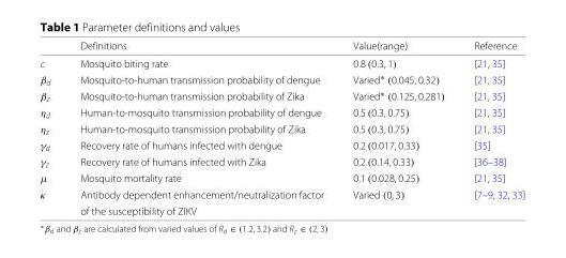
<table><thead><tr><td></td><td>Definitions</td><td>Value(range)</td><td>Reference</td></tr></thead><tbody><tr><td>c</td><td>Mosquito biting rate</td><td>0.8 (0.3, 1)</td><td>[21, 35]</td></tr><tr><td>β<sub>d</sub></td><td>Mosquito-to-human transmission probability of dengue</td><td>Varied∗ (0.045, 0.32)</td><td>[21, 35]</td></tr><tr><td>β<sub>z</sub></td><td>Mosquito-to-human transmission probability of Zika</td><td>Varied∗ (0.125, 0.281)</td><td>[21, 35]</td></tr><tr><td>η<sub>d</sub></td><td>Human-to-mosquito transmission probability of dengue</td><td>0.5 (0.3, 0.75)</td><td>[21, 35]</td></tr><tr><td>η<sub>z</sub></td><td>Human-to-mosquito transmission probability of Zika</td><td>0.5 (0.3, 0.75)</td><td>[21, 35]</td></tr><tr><td>γ<sub>d</sub></td><td>Recovery rate of humans infected with dengue</td><td>0.2 (0.017, 0.33)</td><td>[35]</td></tr><tr><td>γ<sub>z</sub></td><td>Recovery rate of humans infected with Zika</td><td>0.2 (0.14, 0.33)</td><td>[36–38]</td></tr><tr><td>μ</td><td>Mosquito mortality rate</td><td>0.1 (0.028, 0.25)</td><td>[21, 35]</td></tr><tr><td rowspan="2">κ</td><td>Antibody dependent enhancement/neutralization factor</td><td>Varied (0, 3)</td><td>[7–9, 32, 33]</td></tr><tr><td>of the susceptibility of ZIKV</td><td></td><td></td></tr></tbody></table>